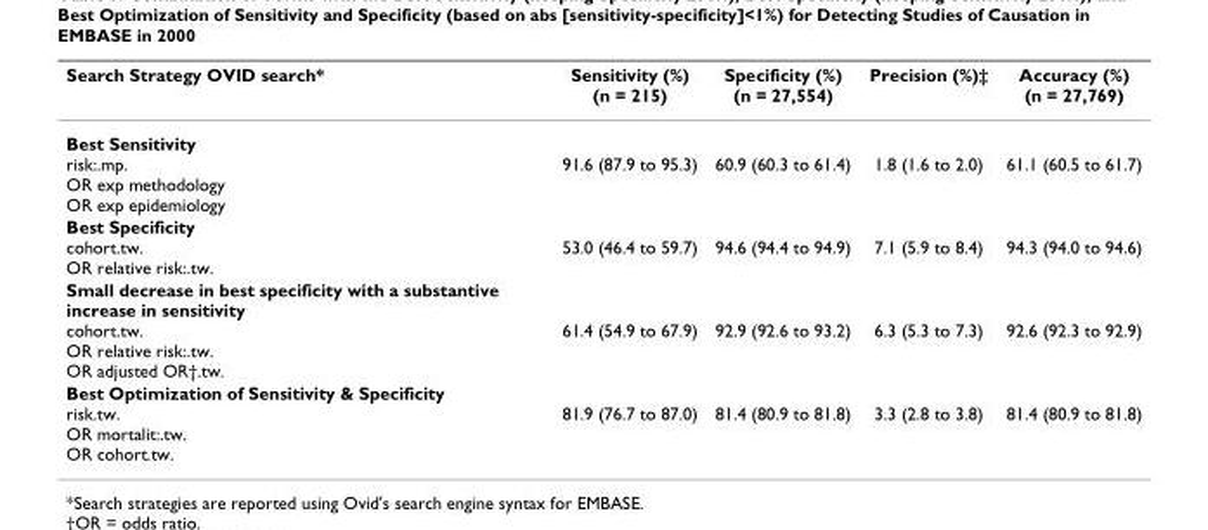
<table><thead><tr><td>Search Strategy OVID search*</td><td>Sensitivity (%) (n = 215)</td><td>Specificity (%) (n = 27,554)</td><td>Precision (%)‡</td><td>Accuracy (%) (n = 27,769)</td></tr></thead><tbody><tr><td>Best Sensitivity risk:.mp. OR exp methodology OR exp epidemiology</td><td>91.6 (87.9 to 95.3)</td><td>60.9 (60.3 to 61.4)</td><td>1.8 (1.6 to 2.0)</td><td>61.1 (60.5 to 61.7)</td></tr><tr><td>Best Specificity cohort.tw. OR relative risk:.tw.</td><td>53.0 (46.4 to 59.7)</td><td>94.6 (94.4 to 94.9)</td><td>7.1 (5.9 to 8.4)</td><td>94.3 (94.0 to 94.6)</td></tr><tr><td>Small decrease in best specificity with a substantive increase in sensitivity cohort.tw. OR relative risk:.tw. OR adjusted OR†.tw.</td><td>61.4 (54.9 to 67.9)</td><td>92.9 (92.6 to 93.2)</td><td>6.3 (5.3 to 7.3)</td><td>92.6 (92.3 to 92.9)</td></tr><tr><td>Best Optimization of Sensitivity &amp; Specificity risk.tw. OR mortalit:.tw. OR cohort.tw.</td><td>81.9 (76.7 to 87.0)</td><td>81.4 (80.9 to 81.8)</td><td>3.3 (2.8 to 3.8)</td><td>81.4 (80.9 to 81.8)</td></tr></tbody></table>